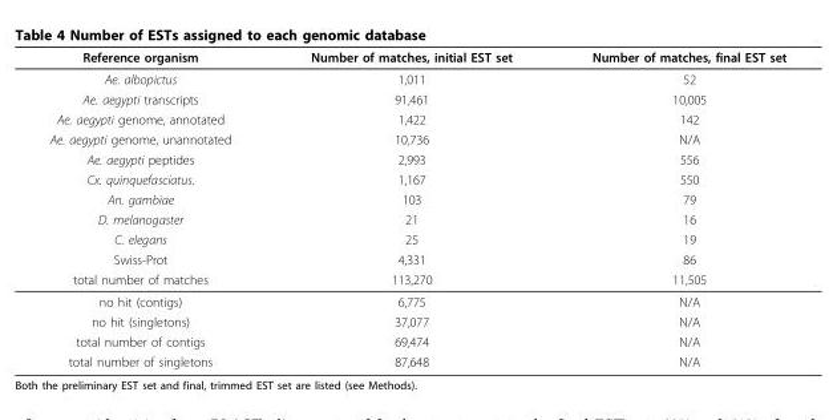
<table><thead><tr><td>Reference organism</td><td>Number of matches, initial EST set</td><td>Number of matches, final EST set</td></tr></thead><tbody><tr><td>Ae. albopictus</td><td>1,011</td><td>52</td></tr><tr><td>Ae. aegypti transcripts</td><td>91,461</td><td>10,005</td></tr><tr><td>Ae. aegypti genome, annotated</td><td>1,422</td><td>142</td></tr><tr><td>Ae. aegypti genome, unannotated</td><td>10,736</td><td>N/A</td></tr><tr><td>Ae. aegypti peptides</td><td>2,993</td><td>556</td></tr><tr><td>Cx. quinquefasciatus.</td><td>1,167</td><td>550</td></tr><tr><td>An. gambiae</td><td>103</td><td>79</td></tr><tr><td>D. melanogaster</td><td>21</td><td>16</td></tr><tr><td>C. elegans</td><td>25</td><td>19</td></tr><tr><td>Swiss-Prot</td><td>4,331</td><td>86</td></tr><tr><td>total number of matches</td><td>113,270</td><td>11,505</td></tr><tr><td>no hit (contigs)</td><td>6,775</td><td>N/A</td></tr><tr><td>no hit (singletons)</td><td>37,077</td><td>N/A</td></tr><tr><td>total number of contigs</td><td>69,474</td><td>N/A</td></tr><tr><td>total number of singletons</td><td>87,648</td><td>N/A</td></tr></tbody></table>